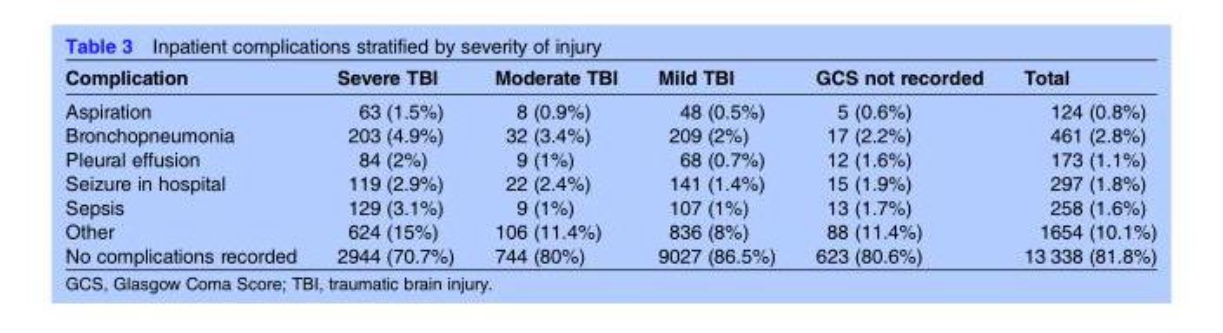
<table><thead><tr><td>Complication</td><td>Severe TBI</td><td>Moderate TBI</td><td>Mild TBI</td><td>GCS not recorded</td><td>Total</td></tr></thead><tbody><tr><td>Aspiration</td><td>63 (1.5%)</td><td>8 (0.9%)</td><td>48 (0.5%)</td><td>5 (0.6%)</td><td>124 (0.8%)</td></tr><tr><td>Bronchopneumonia</td><td>203 (4.9%)</td><td>32 (3.4%)</td><td>209 (2%)</td><td>17 (2.2%)</td><td>461 (2.8%)</td></tr><tr><td>Pleural effusion</td><td>84 (2%)</td><td>9 (1%)</td><td>68 (0.7%)</td><td>12 (1.6%)</td><td>173 (1.1%)</td></tr><tr><td>Seizure in hospital</td><td>119 (2.9%)</td><td>22 (2.4%)</td><td>141 (1.4%)</td><td>15 (1.9%)</td><td>297 (1.8%)</td></tr><tr><td>Sepsis</td><td>129 (3.1%)</td><td>9 (1%)</td><td>107 (1%)</td><td>13 (1.7%)</td><td>258 (1.6%)</td></tr><tr><td>Other</td><td>624 (15%)</td><td>106 (11.4%)</td><td>836 (8%)</td><td>88 (11.4%)</td><td>1654 (10.1%)</td></tr><tr><td>No complications recorded</td><td>2944 (70.7%)</td><td>744 (80%)</td><td>9027 (86.5%)</td><td>623 (80.6%)</td><td>13 338 (81.8%)</td></tr></tbody></table>